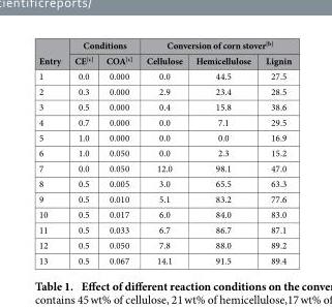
<table><thead><tr><td rowspan="2">Entry</td><td colspan="2">Conditions</td><td colspan="3">Conversion of corn stover[b]</td></tr><tr><td>CE[c]</td><td>COA[c]</td><td>Cellulose</td><td>Hemicellulose</td><td>Lignin</td></tr></thead><tbody><tr><td>1</td><td>0.0</td><td>0.000</td><td>0.0</td><td>44.5</td><td>27.5</td></tr><tr><td>2</td><td>0.3</td><td>0.000</td><td>2.9</td><td>23.4</td><td>28.5</td></tr><tr><td>3</td><td>0.5</td><td>0.000</td><td>0.4</td><td>15.8</td><td>38.6</td></tr><tr><td>4</td><td>0.7</td><td>0.000</td><td>0.0</td><td>7.1</td><td>29.5</td></tr><tr><td>5</td><td>1.0</td><td>0.000</td><td>0.0</td><td>0.0</td><td>16.9</td></tr><tr><td>6</td><td>1.0</td><td>0.050</td><td>0.0</td><td>2.3</td><td>15.2</td></tr><tr><td>7</td><td>0.0</td><td>0.050</td><td>12.0</td><td>98.1</td><td>47.0</td></tr><tr><td>8</td><td>0.5</td><td>0.005</td><td>3.0</td><td>65.5</td><td>63.3</td></tr><tr><td>9</td><td>0.5</td><td>0.010</td><td>5.1</td><td>83.2</td><td>77.6</td></tr><tr><td>10</td><td>0.5</td><td>0.017</td><td>6.0</td><td>84.0</td><td>83.0</td></tr><tr><td>11</td><td>0.5</td><td>0.033</td><td>6.7</td><td>86.7</td><td>87.1</td></tr><tr><td>12</td><td>0.5</td><td>0.050</td><td>7.8</td><td>88.0</td><td>89.2</td></tr><tr><td>13</td><td>0.5</td><td>0.067</td><td>14.1</td><td>91.5</td><td>89.4</td></tr></tbody></table>